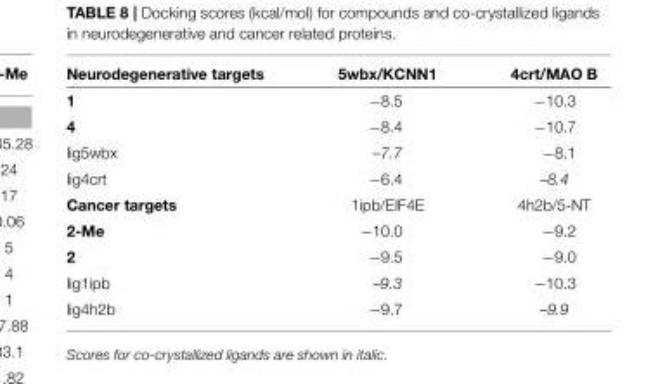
<table><thead><tr><td>Neurodegenerative targets</td><td>5wbx/KCNN1</td><td>4crt/MAO B</td></tr></thead><tbody><tr><td>1</td><td>−8.5</td><td>−10.3</td></tr><tr><td>4</td><td>−8.4</td><td>−10.7</td></tr><tr><td>lig5wbx</td><td>–7.7</td><td>−8.1</td></tr><tr><td>lig4crt</td><td>−6.4</td><td>–8.4</td></tr><tr><td>Cancer targets</td><td>1ipb/EIF4E</td><td>4h2b/5-NT</td></tr><tr><td>2-Me</td><td>−10.0</td><td>−9.2</td></tr><tr><td>2</td><td>−9.5</td><td>−9.0</td></tr><tr><td>lig1ipb</td><td>–9.3</td><td>−10.3</td></tr><tr><td>lig4h2b</td><td>−9.7</td><td>–9.9</td></tr></tbody></table>